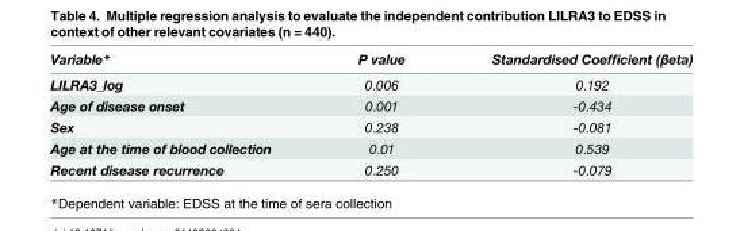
<table><thead><tr><td>Variable*</td><td>P value</td><td>Standardised Coefficient (βeta)</td></tr></thead><tbody><tr><td>LILRA3_log</td><td>0.006</td><td>0.192</td></tr><tr><td>Age of disease onset</td><td>0.001</td><td>-0.434</td></tr><tr><td>Sex</td><td>0.238</td><td>-0.081</td></tr><tr><td>Age at the time of blood collection</td><td>0.01</td><td>0.539</td></tr><tr><td>Recent disease recurrence</td><td>0.250</td><td>-0.079</td></tr></tbody></table>